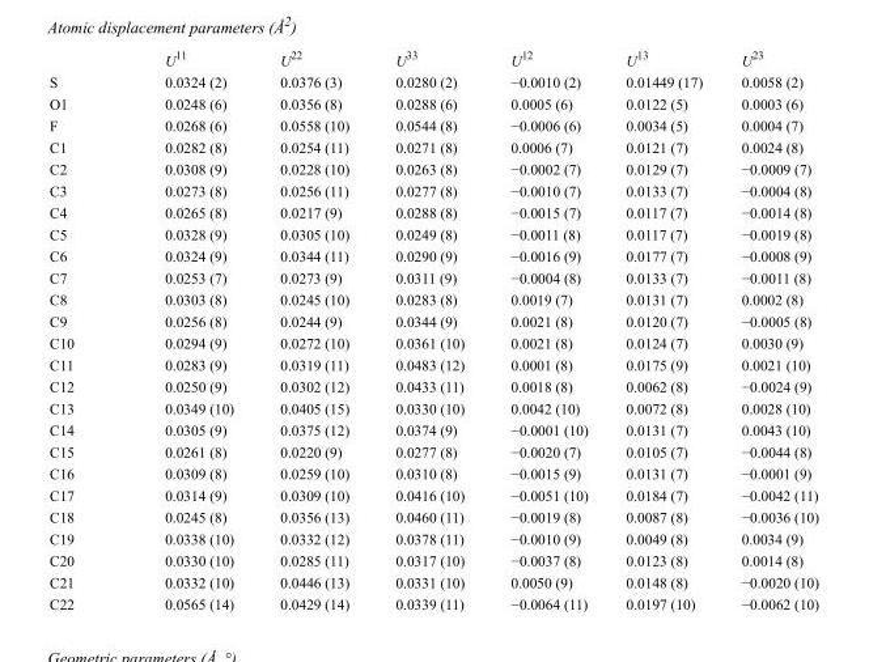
<table><thead><tr><td></td><td>U<sup>11</sup></td><td>U<sup>22</sup></td><td>U<sup>33</sup></td><td>U<sup>12</sup></td><td>U<sup>13</sup></td><td>U<sup>23</sup></td></tr></thead><tbody><tr><td>S</td><td>0.0324 (2)</td><td>0.0376 (3)</td><td>0.0280 (2)</td><td>−0.0010 (2)</td><td>0.01449 (17)</td><td>0.0058 (2)</td></tr><tr><td>O1</td><td>0.0248 (6)</td><td>0.0356 (8)</td><td>0.0288 (6)</td><td>0.0005 (6)</td><td>0.0122 (5)</td><td>0.0003 (6)</td></tr><tr><td>F</td><td>0.0268 (6)</td><td>0.0558 (10)</td><td>0.0544 (8)</td><td>−0.0006 (6)</td><td>0.0034 (5)</td><td>0.0004 (7)</td></tr><tr><td>C1</td><td>0.0282 (8)</td><td>0.0254 (11)</td><td>0.0271 (8)</td><td>0.0006 (7)</td><td>0.0121 (7)</td><td>0.0024 (8)</td></tr><tr><td>C2</td><td>0.0308 (9)</td><td>0.0228 (10)</td><td>0.0263 (8)</td><td>−0.0002 (7)</td><td>0.0129 (7)</td><td>−0.0009 (7)</td></tr><tr><td>C3</td><td>0.0273 (8)</td><td>0.0256 (11)</td><td>0.0277 (8)</td><td>−0.0010 (7)</td><td>0.0133 (7)</td><td>−0.0004 (8)</td></tr><tr><td>C4</td><td>0.0265 (8)</td><td>0.0217 (9)</td><td>0.0288 (8)</td><td>−0.0015 (7)</td><td>0.0117 (7)</td><td>−0.0014 (8)</td></tr><tr><td>C5</td><td>0.0328 (9)</td><td>0.0305 (10)</td><td>0.0249 (8)</td><td>−0.0011 (8)</td><td>0.0117 (7)</td><td>−0.0019 (8)</td></tr><tr><td>C6</td><td>0.0324 (9)</td><td>0.0344 (11)</td><td>0.0290 (9)</td><td>−0.0016 (9)</td><td>0.0177 (7)</td><td>−0.0008 (9)</td></tr><tr><td>C7</td><td>0.0253 (7)</td><td>0.0273 (9)</td><td>0.0311 (9)</td><td>−0.0004 (8)</td><td>0.0133 (7)</td><td>−0.0011 (8)</td></tr><tr><td>C8</td><td>0.0303 (8)</td><td>0.0245 (10)</td><td>0.0283 (8)</td><td>0.0019 (7)</td><td>0.0131 (7)</td><td>0.0002 (8)</td></tr><tr><td>C9</td><td>0.0256 (8)</td><td>0.0244 (9)</td><td>0.0344 (9)</td><td>0.0021 (8)</td><td>0.0120 (7)</td><td>−0.0005 (8)</td></tr><tr><td>C10</td><td>0.0294 (9)</td><td>0.0272 (10)</td><td>0.0361 (10)</td><td>0.0021 (8)</td><td>0.0124 (7)</td><td>0.0030 (9)</td></tr><tr><td>C11</td><td>0.0283 (9)</td><td>0.0319 (11)</td><td>0.0483 (12)</td><td>0.0001 (8)</td><td>0.0175 (9)</td><td>0.0021 (10)</td></tr><tr><td>C12</td><td>0.0250 (9)</td><td>0.0302 (12)</td><td>0.0433 (11)</td><td>0.0018 (8)</td><td>0.0062 (8)</td><td>−0.0024 (9)</td></tr><tr><td>C13</td><td>0.0349 (10)</td><td>0.0405 (15)</td><td>0.0330 (10)</td><td>0.0042 (10)</td><td>0.0072 (8)</td><td>0.0028 (10)</td></tr><tr><td>C14</td><td>0.0305 (9)</td><td>0.0375 (12)</td><td>0.0374 (9)</td><td>−0.0001 (10)</td><td>0.0131 (7)</td><td>0.0043 (10)</td></tr><tr><td>C15</td><td>0.0261 (8)</td><td>0.0220 (9)</td><td>0.0277 (8)</td><td>−0.0020 (7)</td><td>0.0105 (7)</td><td>−0.0044 (8)</td></tr><tr><td>C16</td><td>0.0309 (8)</td><td>0.0259 (10)</td><td>0.0310 (8)</td><td>−0.0015 (9)</td><td>0.0131 (7)</td><td>−0.0001 (9)</td></tr><tr><td>C17</td><td>0.0314 (9)</td><td>0.0309 (10)</td><td>0.0416 (10)</td><td>−0.0051 (10)</td><td>0.0184 (7)</td><td>−0.0042 (11)</td></tr><tr><td>C18</td><td>0.0245 (8)</td><td>0.0356 (13)</td><td>0.0460 (11)</td><td>−0.0019 (8)</td><td>0.0087 (8)</td><td>−0.0036 (10)</td></tr><tr><td>C19</td><td>0.0338 (10)</td><td>0.0332 (12)</td><td>0.0378 (11)</td><td>−0.0010 (9)</td><td>0.0049 (8)</td><td>0.0034 (9)</td></tr><tr><td>C20</td><td>0.0330 (10)</td><td>0.0285 (11)</td><td>0.0317 (10)</td><td>−0.0037 (8)</td><td>0.0123 (8)</td><td>0.0014 (8)</td></tr><tr><td>C21</td><td>0.0332 (10)</td><td>0.0446 (13)</td><td>0.0331 (10)</td><td>0.0050 (9)</td><td>0.0148 (8)</td><td>−0.0020 (10)</td></tr><tr><td>C22</td><td>0.0565 (14)</td><td>0.0429 (14)</td><td>0.0339 (11)</td><td>−0.0064 (11)</td><td>0.0197 (10)</td><td>−0.0062 (10)</td></tr></tbody></table>